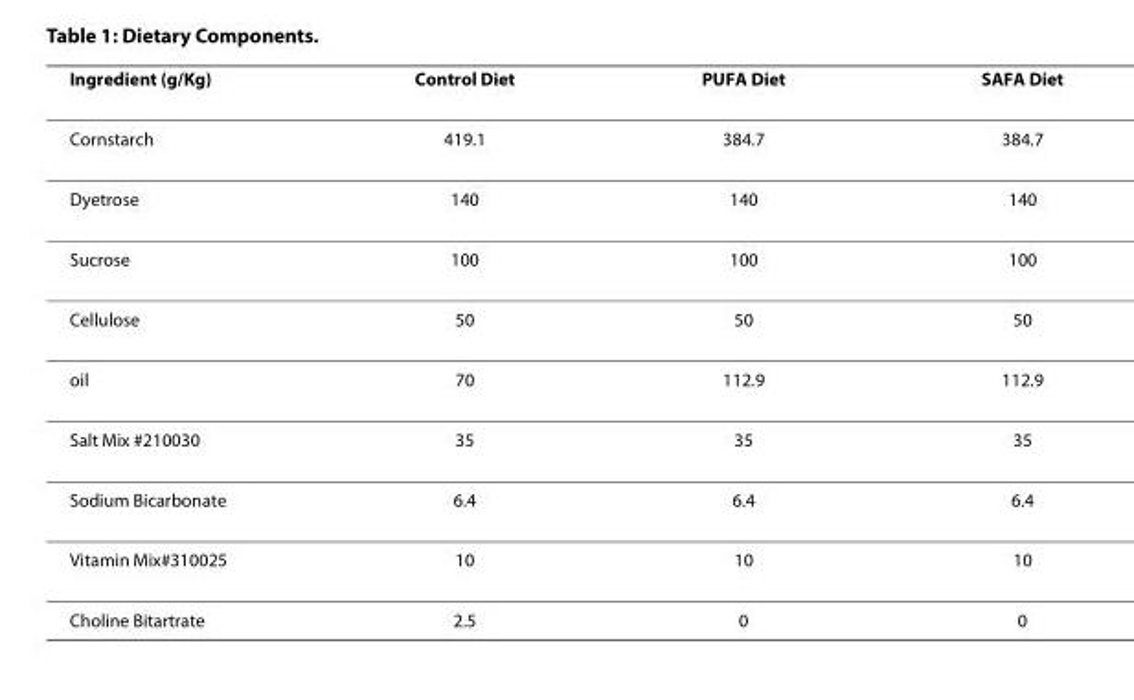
<table><thead><tr><td>Ingredient (g/Kg)</td><td>Control Diet</td><td>PUFA Diet</td><td>SAFA Diet</td></tr></thead><tbody><tr><td>Cornstarch</td><td>419.1</td><td>384.7</td><td>384.7</td></tr><tr><td>Dyetrose</td><td>140</td><td>140</td><td>140</td></tr><tr><td>Sucrose</td><td>100</td><td>100</td><td>100</td></tr><tr><td>Cellulose</td><td>50</td><td>50</td><td>50</td></tr><tr><td>oil</td><td>70</td><td>112.9</td><td>112.9</td></tr><tr><td>Salt Mix #210030</td><td>35</td><td>35</td><td>35</td></tr><tr><td>Sodium Bicarbonate</td><td>6.4</td><td>6.4</td><td>6.4</td></tr><tr><td>Vitamin Mix#310025</td><td>10</td><td>10</td><td>10</td></tr><tr><td>Choline Bitartrate</td><td>2.5</td><td>0</td><td>0</td></tr></tbody></table>